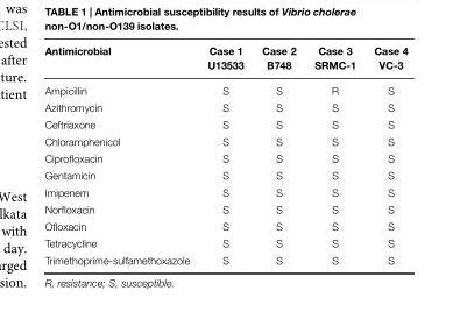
<table><thead><tr><td>Antimicrobial</td><td>Case 1 U13533</td><td>Case 2 B748</td><td>Case 3 SRMC-1</td><td>Case 4 VC-3</td></tr></thead><tbody><tr><td>Ampicillin</td><td>S</td><td>S</td><td>R</td><td>S</td></tr><tr><td>Azithromycin</td><td>S</td><td>S</td><td>S</td><td>S</td></tr><tr><td>Ceftriaxone</td><td>S</td><td>S</td><td>S</td><td>S</td></tr><tr><td>Chloramphenicol</td><td>S</td><td>S</td><td>S</td><td>S</td></tr><tr><td>Ciprofloxacin</td><td>S</td><td>S</td><td>S</td><td>S</td></tr><tr><td>Gentamicin</td><td>S</td><td>S</td><td>S</td><td>S</td></tr><tr><td>Imipenem</td><td>S</td><td>S</td><td>S</td><td>S</td></tr><tr><td>Norfloxacin</td><td>S</td><td>S</td><td>S</td><td>S</td></tr><tr><td>Ofloxacin</td><td>S</td><td>S</td><td>S</td><td>S</td></tr><tr><td>Tetracycline</td><td>S</td><td>S</td><td>S</td><td>S</td></tr><tr><td>Trimethoprime-sulfamethoxazole</td><td>S</td><td>S</td><td>S</td><td>S</td></tr></tbody></table>